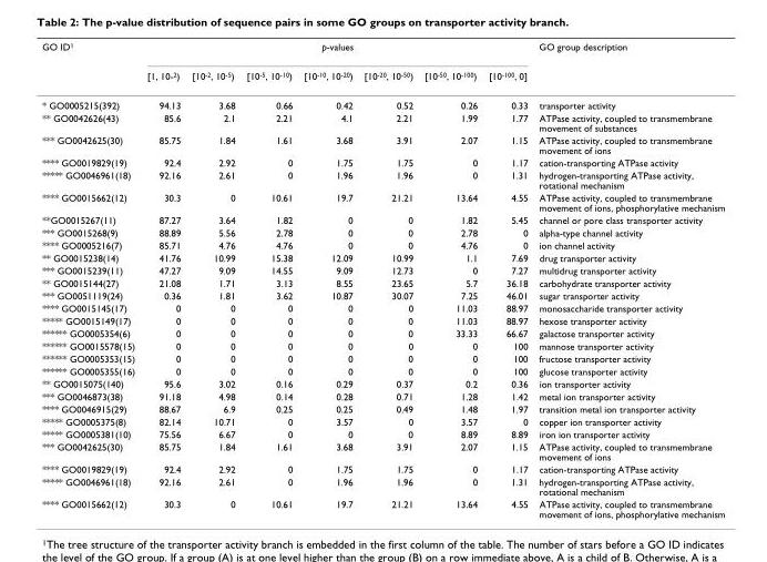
<table><thead><tr><td rowspan="2">GO ID1</td><td colspan="7">p-values</td><td rowspan="2">GO group description</td></tr><tr><td>[1, 10-2)</td><td>[10-2, 10-5)</td><td>[10-5, 10-10)</td><td>[10-10, 10-20)</td><td>[10-20, 10-50)</td><td>[10-50, 10-100)</td><td>[10-100, 0]</td></tr></thead><tbody><tr><td>* GO0005215(392)</td><td>94.13</td><td>3.68</td><td>0.66</td><td>0.42</td><td>0.52</td><td>0.26</td><td>0.33</td><td>transporter activity</td></tr><tr><td>** GO0042626(43)</td><td>85.6</td><td>2.1</td><td>2.21</td><td>4.1</td><td>2.21</td><td>1.99</td><td>1.77</td><td>ATPase activity, coupled to transmembrane movement of substances</td></tr><tr><td>*** GO0042625(30)</td><td>85.75</td><td>1.84</td><td>1.61</td><td>3.68</td><td>3.91</td><td>2.07</td><td>1.15</td><td>ATPase activity, coupled to transmembrane movement of ions</td></tr><tr><td>**** GO0019829(19)</td><td>92.4</td><td>2.92</td><td>0</td><td>1.75</td><td>1.75</td><td>0</td><td>1.17</td><td>cation-transporting ATPase activity</td></tr><tr><td>***** GO0046961(18)</td><td>92.16</td><td>2.61</td><td>0</td><td>1.96</td><td>1.96</td><td>0</td><td>1.31</td><td>hydrogen-transporting ATPase activity, rotational mechanism</td></tr><tr><td>**** GO0015662(12)</td><td>30.3</td><td>0</td><td>10.61</td><td>19.7</td><td>21.21</td><td>13.64</td><td>4.55</td><td>ATPase activity, coupled to transmembrane movement of ions, phosphorylative mechanism</td></tr><tr><td>**GO0015267(11)</td><td>87.27</td><td>3.64</td><td>1.82</td><td>0</td><td>0</td><td>1.82</td><td>5.45</td><td>channel or pore class transporter activity</td></tr><tr><td>*** GO0015268(9)</td><td>88.89</td><td>5.56</td><td>2.78</td><td>0</td><td>0</td><td>2.78</td><td>0</td><td>alpha-type channel activity</td></tr><tr><td>**** GO0005216(7)</td><td>85.71</td><td>4.76</td><td>4.76</td><td>0</td><td>0</td><td>4.76</td><td>0</td><td>ion channel activity</td></tr><tr><td>** GO0015238(14)</td><td>41.76</td><td>10.99</td><td>15.38</td><td>12.09</td><td>10.99</td><td>1.1</td><td>7.69</td><td>drug transporter activity</td></tr><tr><td>*** GO0015239(11)</td><td>47.27</td><td>9.09</td><td>14.55</td><td>9.09</td><td>12.73</td><td>0</td><td>7.27</td><td>multidrug transporter activity</td></tr><tr><td>** GO0015144(27)</td><td>21.08</td><td>1.71</td><td>3.13</td><td>8.55</td><td>23.65</td><td>5.7</td><td>36.18</td><td>carbohydrate transporter activity</td></tr><tr><td>*** GO0051119(24)</td><td>0.36</td><td>1.81</td><td>3.62</td><td>10.87</td><td>30.07</td><td>7.25</td><td>46.01</td><td>sugar transporter activity</td></tr><tr><td>**** GO0015145(17)</td><td>0</td><td>0</td><td>0</td><td>0</td><td>0</td><td>11.03</td><td>88.97</td><td>monosaccharide transporter activity</td></tr><tr><td>***** GO0015149(17)</td><td>0</td><td>0</td><td>0</td><td>0</td><td>0</td><td>11.03</td><td>88.97</td><td>hexose transporter activity</td></tr><tr><td>****** GO0005354(6)</td><td>0</td><td>0</td><td>0</td><td>0</td><td>0</td><td>33.33</td><td>66.67</td><td>galactose transporter activity</td></tr><tr><td>****** GO0015578(15)</td><td>0</td><td>0</td><td>0</td><td>0</td><td>0</td><td>0</td><td>100</td><td>mannose transporter activity</td></tr><tr><td>****** GO0005353(15)</td><td>0</td><td>0</td><td>0</td><td>0</td><td>0</td><td>0</td><td>100</td><td>fructose transporter activity</td></tr><tr><td>****** GO0005355(16)</td><td>0</td><td>0</td><td>0</td><td>0</td><td>0</td><td>0</td><td>100</td><td>glucose transporter activity</td></tr><tr><td>** GO0015075(140)</td><td>95.6</td><td>3.02</td><td>0.16</td><td>0.29</td><td>0.37</td><td>0.2</td><td>0.36</td><td>ion transporter activity</td></tr><tr><td>*** GO0046873(38)</td><td>91.18</td><td>4.98</td><td>0.14</td><td>0.28</td><td>0.71</td><td>1.28</td><td>1.42</td><td>metal ion transporter activity</td></tr><tr><td>**** GO0046915(29)</td><td>88.67</td><td>6.9</td><td>0.25</td><td>0.25</td><td>0.49</td><td>1.48</td><td>1.97</td><td>transition metal ion transporter activity</td></tr><tr><td>***** GO0005375(8)</td><td>82.14</td><td>10.71</td><td>0</td><td>3.57</td><td>0</td><td>3.57</td><td>0</td><td>copper ion transporter activity</td></tr><tr><td>***** GO0005381(10)</td><td>75.56</td><td>6.67</td><td>0</td><td>0</td><td>0</td><td>8.89</td><td>8.89</td><td>iron ion transporter activity</td></tr><tr><td>*** GO0042625(30)</td><td>85.75</td><td>1.84</td><td>1.61</td><td>3.68</td><td>3.91</td><td>2.07</td><td>1.15</td><td>ATPase activity, coupled to transmembrane movement of ions</td></tr><tr><td>**** GO0019829(19)</td><td>92.4</td><td>2.92</td><td>0</td><td>1.75</td><td>1.75</td><td>0</td><td>1.17</td><td>cation-transporting ATPase activity</td></tr><tr><td>***** GO0046961(18)</td><td>92.16</td><td>2.61</td><td>0</td><td>1.96</td><td>1.96</td><td>0</td><td>1.31</td><td>hydrogen-transporting ATPase activity, rotational mechanism</td></tr><tr><td>**** GO0015662(12)</td><td>30.3</td><td>0</td><td>10.61</td><td>19.7</td><td>21.21</td><td>13.64</td><td>4.55</td><td>ATPase activity, coupled to transmembrane movement of ions, phosphorylative mechanism</td></tr></tbody></table>